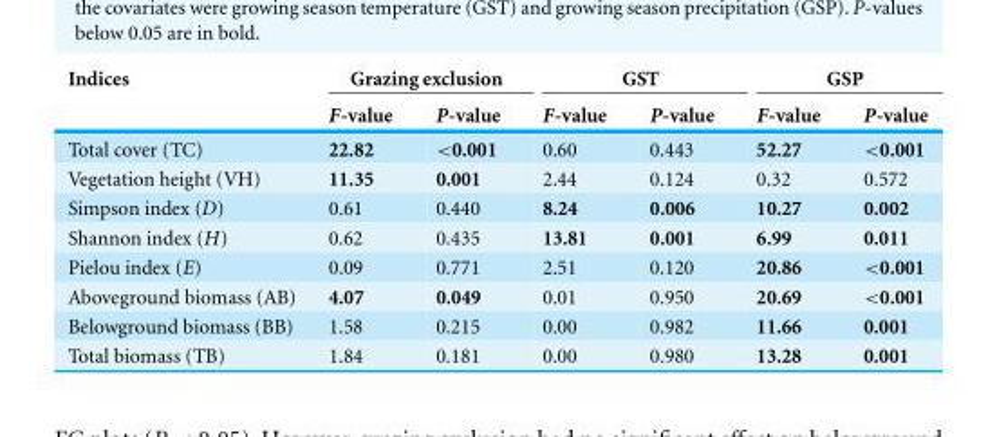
<table><thead><tr><td rowspan="2">Indices</td><td colspan="2">Grazing exclusion</td><td colspan="2">GST</td><td colspan="2">GSP</td></tr><tr><td>F-value</td><td>P-value</td><td>F-value</td><td>P-value</td><td>F-value</td><td>P-value</td></tr></thead><tbody><tr><td>Total cover (TC)</td><td>22.82</td><td>&lt;0.001</td><td>0.60</td><td>0.443</td><td>52.27</td><td>&lt;0.001</td></tr><tr><td>Vegetation height (VH)</td><td>11.35</td><td>0.001</td><td>2.44</td><td>0.124</td><td>0.32</td><td>0.572</td></tr><tr><td>Simpson index (D)</td><td>0.61</td><td>0.440</td><td>8.24</td><td>0.006</td><td>10.27</td><td>0.002</td></tr><tr><td>Shannon index (H)</td><td>0.62</td><td>0.435</td><td>13.81</td><td>0.001</td><td>6.99</td><td>0.011</td></tr><tr><td>Pielou index (E)</td><td>0.09</td><td>0.771</td><td>2.51</td><td>0.120</td><td>20.86</td><td>&lt;0.001</td></tr><tr><td>Aboveground biomass (AB)</td><td>4.07</td><td>0.049</td><td>0.01</td><td>0.950</td><td>20.69</td><td>&lt;0.001</td></tr><tr><td>Belowground biomass (BB)</td><td>1.58</td><td>0.215</td><td>0.00</td><td>0.982</td><td>11.66</td><td>0.001</td></tr><tr><td>Total biomass (TB)</td><td>1.84</td><td>0.181</td><td>0.00</td><td>0.980</td><td>13.28</td><td>0.001</td></tr></tbody></table>